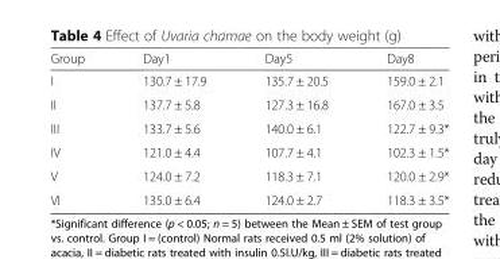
<table><thead><tr><td>Group</td><td>Day1</td><td>Day5</td><td>Day8</td></tr></thead><tbody><tr><td>I</td><td>130.7 ± 17.9</td><td>135.7 ± 20.5</td><td>159.0 ± 2.1</td></tr><tr><td>II</td><td>137.7 ± 5.8</td><td>127.3 ± 16.8</td><td>167.0 ± 3.5</td></tr><tr><td>III</td><td>133.7 ± 5.6</td><td>140.0 ± 6.1</td><td>122.7 ± 9.3*</td></tr><tr><td>IV</td><td>121.0 ± 4.4</td><td>107.7 ± 4.1</td><td>102.3 ± 1.5*</td></tr><tr><td>V</td><td>124.0 ± 7.2</td><td>118.3 ± 7.1</td><td>120.0 ± 2.9*</td></tr><tr><td>VI</td><td>135.0 ± 6.4</td><td>124.0 ± 2.7</td><td>118.3 ± 3.5*</td></tr></tbody></table>